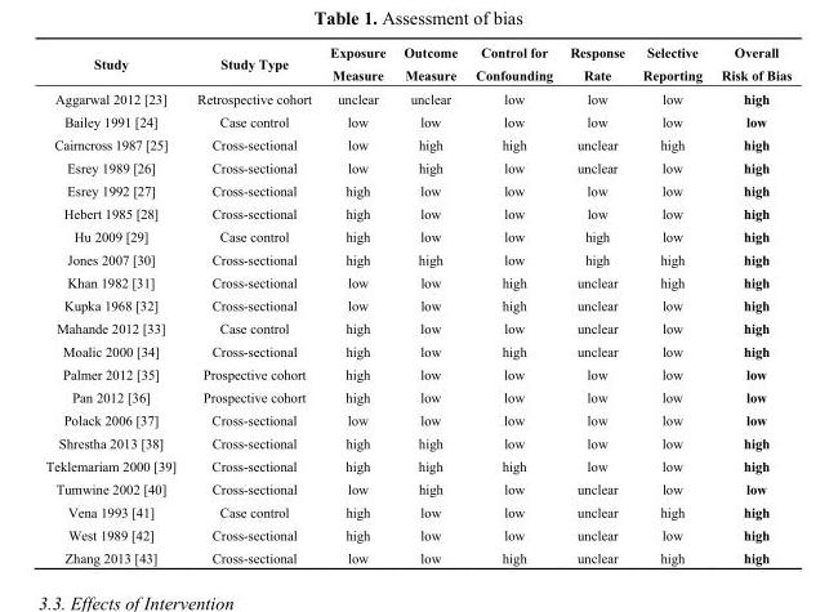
<table><thead><tr><td>Study</td><td>Study Type</td><td>Exposure Measure</td><td>Outcome Measure</td><td>Control for Confounding</td><td>Response Rate</td><td>Selective Reporting</td><td>Overall Risk of Bias</td></tr></thead><tbody><tr><td>Aggarwal 2012 [23]</td><td>Retrospective cohort</td><td>unclear</td><td>unclear</td><td>low</td><td>low</td><td>low</td><td>high</td></tr><tr><td>Bailey 1991 [24]</td><td>Case control</td><td>low</td><td>low</td><td>low</td><td>low</td><td>low</td><td>low</td></tr><tr><td>Cairncross 1987 [25]</td><td>Cross-sectional</td><td>low</td><td>high</td><td>high</td><td>unclear</td><td>high</td><td>high</td></tr><tr><td>Esrey 1989 [26]</td><td>Cross-sectional</td><td>low</td><td>high</td><td>low</td><td>unclear</td><td>low</td><td>high</td></tr><tr><td>Esrey 1992 [27]</td><td>Cross-sectional</td><td>high</td><td>low</td><td>low</td><td>low</td><td>low</td><td>high</td></tr><tr><td>Hebert 1985 [28]</td><td>Cross-sectional</td><td>high</td><td>low</td><td>low</td><td>low</td><td>low</td><td>high</td></tr><tr><td>Hu 2009 [29]</td><td>Case control</td><td>high</td><td>low</td><td>low</td><td>high</td><td>low</td><td>high</td></tr><tr><td>Jones 2007 [30]</td><td>Cross-sectional</td><td>high</td><td>high</td><td>low</td><td>high</td><td>high</td><td>high</td></tr><tr><td>Khan 1982 [31]</td><td>Cross-sectional</td><td>low</td><td>low</td><td>high</td><td>unclear</td><td>high</td><td>high</td></tr><tr><td>Kupka 1968 [32]</td><td>Cross-sectional</td><td>low</td><td>low</td><td>high</td><td>unclear</td><td>low</td><td>high</td></tr><tr><td>Mahande 2012 [33]</td><td>Case control</td><td>high</td><td>low</td><td>low</td><td>unclear</td><td>low</td><td>high</td></tr><tr><td>Moalic 2000 [34]</td><td>Cross-sectional</td><td>high</td><td>low</td><td>high</td><td>unclear</td><td>low</td><td>high</td></tr><tr><td>Palmer 2012 [35]</td><td>Prospective cohort</td><td>high</td><td>low</td><td>low</td><td>low</td><td>low</td><td>low</td></tr><tr><td>Pan 2012 [36]</td><td>Prospective cohort</td><td>high</td><td>low</td><td>low</td><td>low</td><td>low</td><td>low</td></tr><tr><td>Polack 2006 [37]</td><td>Cross-sectional</td><td>low</td><td>low</td><td>low</td><td>low</td><td>low</td><td>low</td></tr><tr><td>Shrestha 2013 [38]</td><td>Cross-sectional</td><td>high</td><td>high</td><td>low</td><td>low</td><td>low</td><td>high</td></tr><tr><td>Teklemariam 2000 [39]</td><td>Cross-sectional</td><td>high</td><td>high</td><td>high</td><td>low</td><td>low</td><td>high</td></tr><tr><td>Tumwine 2002 [40]</td><td>Cross-sectional</td><td>low</td><td>high</td><td>low</td><td>unclear</td><td>low</td><td>low</td></tr><tr><td>Vena 1993 [41]</td><td>Case control</td><td>high</td><td>low</td><td>low</td><td>unclear</td><td>high</td><td>high</td></tr><tr><td>West 1989 [42]</td><td>Cross-sectional</td><td>high</td><td>low</td><td>low</td><td>unclear</td><td>low</td><td>high</td></tr><tr><td>Zhang 2013 [43]</td><td>Cross-sectional</td><td>low</td><td>low</td><td>high</td><td>unclear</td><td>high</td><td>high</td></tr></tbody></table>